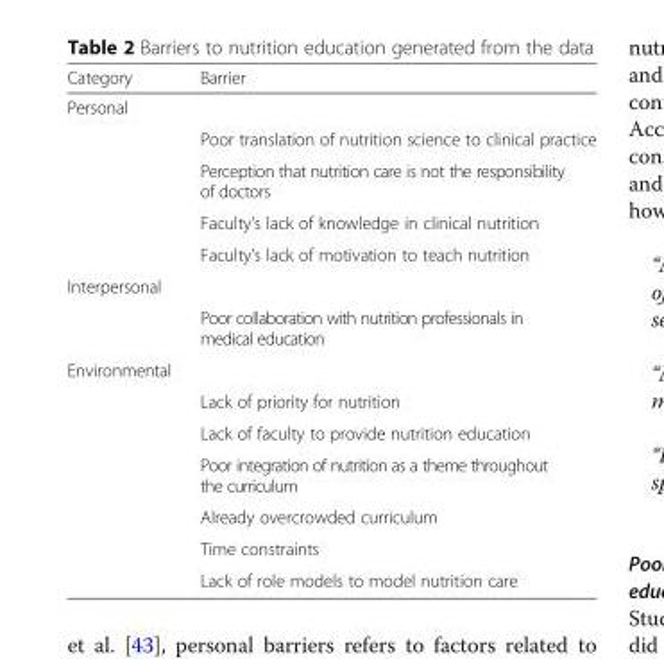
<table><thead><tr><td>Category</td><td>Barrier</td></tr></thead><tbody><tr><td colspan="2">Personal</td></tr><tr><td></td><td>Poor translation of nutrition science to clinical practice</td></tr><tr><td></td><td>Perception that nutrition care is not the responsibility of doctors</td></tr><tr><td></td><td>Faculty’s lack of knowledge in clinical nutrition</td></tr><tr><td></td><td>Faculty’s lack of motivation to teach nutrition</td></tr><tr><td colspan="2">Interpersonal</td></tr><tr><td></td><td>Poor collaboration with nutrition professionals in medical education</td></tr><tr><td colspan="2">Environmental</td></tr><tr><td></td><td>Lack of priority for nutrition</td></tr><tr><td></td><td>Lack of faculty to provide nutrition education</td></tr><tr><td></td><td>Poor integration of nutrition as a theme throughout the curriculum</td></tr><tr><td></td><td>Already overcrowded curriculum</td></tr><tr><td></td><td>Time constraints</td></tr><tr><td></td><td>Lack of role models to model nutrition care</td></tr></tbody></table>